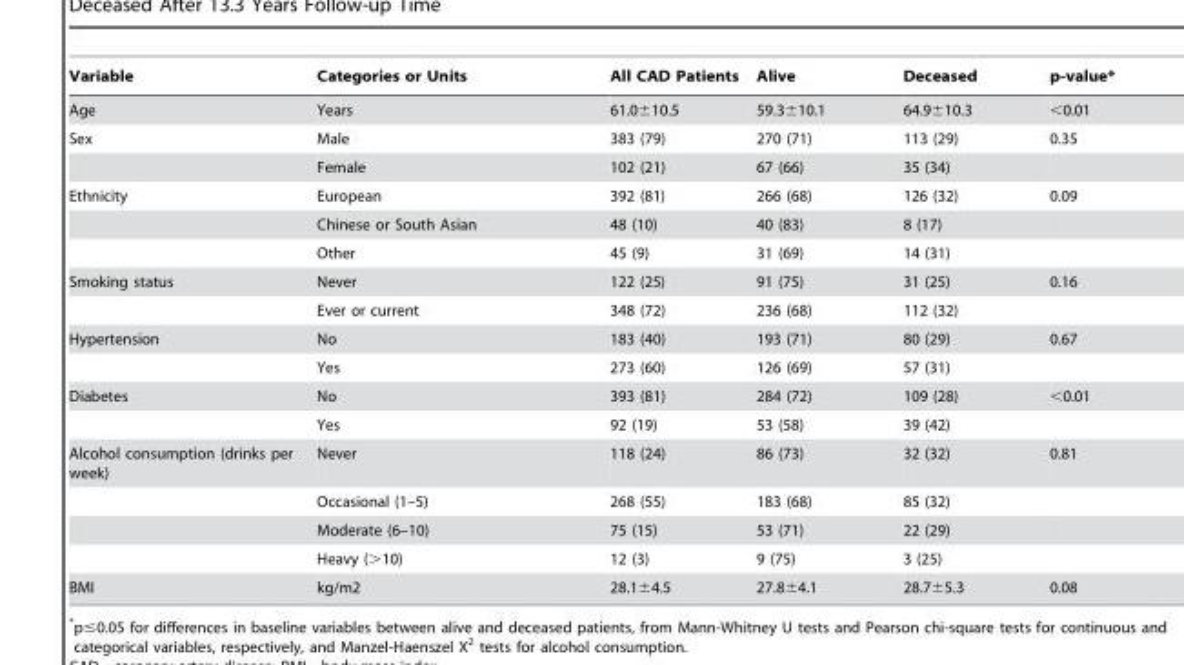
<table><thead><tr><td>Variable</td><td>Categories or Units</td><td>All CAD Patients</td><td>Alive</td><td>Deceased</td><td>p-value*</td></tr></thead><tbody><tr><td>Age</td><td>Years</td><td>61.0±10.5</td><td>59.3±10.1</td><td>64.9±10.3</td><td>&lt;0.01</td></tr><tr><td rowspan="2">Sex</td><td>Male</td><td>383 (79)</td><td>270 (71)</td><td>113 (29)</td><td>0.35</td></tr><tr><td>Female</td><td>102 (21)</td><td>67 (66)</td><td>35 (34)</td><td></td></tr><tr><td rowspan="3">Ethnicity</td><td>European</td><td>392 (81)</td><td>266 (68)</td><td>126 (32)</td><td>0.09</td></tr><tr><td>Chinese or South Asian</td><td>48 (10)</td><td>40 (83)</td><td>8 (17)</td><td></td></tr><tr><td>Other</td><td>45 (9)</td><td>31 (69)</td><td>14 (31)</td><td></td></tr><tr><td rowspan="2">Smoking status</td><td>Never</td><td>122 (25)</td><td>91 (75)</td><td>31 (25)</td><td>0.16</td></tr><tr><td>Ever or current</td><td>348 (72)</td><td>236 (68)</td><td>112 (32)</td><td></td></tr><tr><td rowspan="2">Hypertension</td><td>No</td><td>183 (40)</td><td>193 (71)</td><td>80 (29)</td><td>0.67</td></tr><tr><td>Yes</td><td>273 (60)</td><td>126 (69)</td><td>57 (31)</td><td></td></tr><tr><td rowspan="2">Diabetes</td><td>No</td><td>393 (81)</td><td>284 (72)</td><td>109 (28)</td><td>&lt;0.01</td></tr><tr><td>Yes</td><td>92 (19)</td><td>53 (58)</td><td>39 (42)</td><td></td></tr><tr><td rowspan="4">Alcohol consumption (drinks per week)</td><td>Never</td><td>118 (24)</td><td>86 (73)</td><td>32 (32)</td><td>0.81</td></tr><tr><td>Occasional (1–5)</td><td>268 (55)</td><td>183 (68)</td><td>85 (32)</td><td></td></tr><tr><td>Moderate (6–10)</td><td>75 (15)</td><td>53 (71)</td><td>22 (29)</td><td></td></tr><tr><td>Heavy (&gt;10)</td><td>12 (3)</td><td>9 (75)</td><td>3 (25)</td><td></td></tr><tr><td>BMI</td><td>kg/m2</td><td>28.1±4.5</td><td>27.8±4.1</td><td>28.7±5.3</td><td>0.08</td></tr></tbody></table>